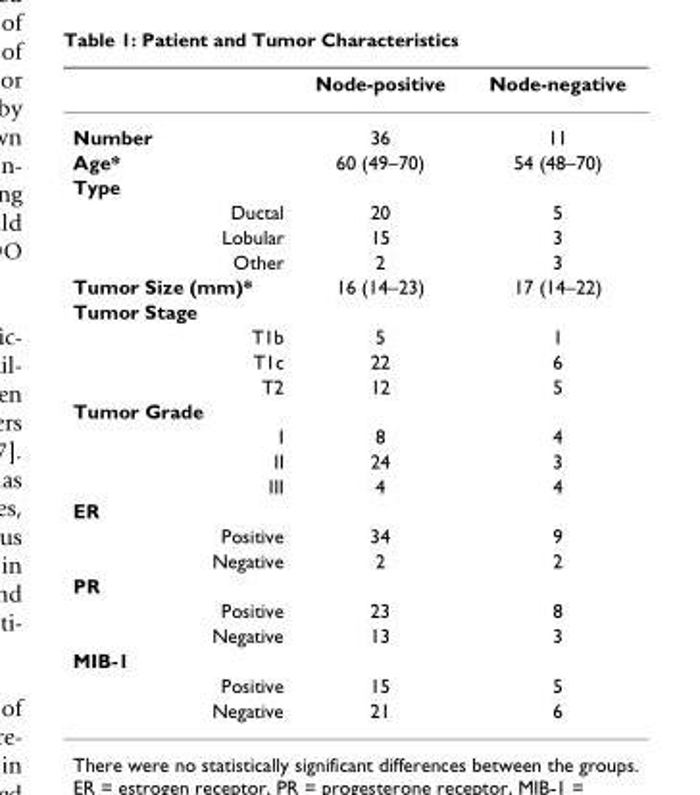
<table><thead><tr><td></td><td>Node-positive</td><td>Node-negative</td></tr></thead><tbody><tr><td>Number</td><td>36</td><td>11</td></tr><tr><td>Age*</td><td>60 (49–70)</td><td>54 (48–70)</td></tr><tr><td colspan="3">Type</td></tr><tr><td>Ductal</td><td>20</td><td>5</td></tr><tr><td>Lobular</td><td>15</td><td>3</td></tr><tr><td>Other</td><td>2</td><td>3</td></tr><tr><td>Tumor Size (mm)*</td><td>16 (14–23)</td><td>17 (14–22)</td></tr><tr><td colspan="3">Tumor Stage</td></tr><tr><td>T1b</td><td>5</td><td>1</td></tr><tr><td>T1c</td><td>22</td><td>6</td></tr><tr><td>T2</td><td>12</td><td>5</td></tr><tr><td colspan="3">Tumor Grade</td></tr><tr><td>I</td><td>8</td><td>4</td></tr><tr><td>II</td><td>24</td><td>3</td></tr><tr><td>III</td><td>4</td><td>4</td></tr><tr><td colspan="3">ER</td></tr><tr><td>Positive</td><td>34</td><td>9</td></tr><tr><td>Negative</td><td>2</td><td>2</td></tr><tr><td colspan="3">PR</td></tr><tr><td>Positive</td><td>23</td><td>8</td></tr><tr><td>Negative</td><td>13</td><td>3</td></tr><tr><td colspan="3">MIB-1</td></tr><tr><td>Positive</td><td>15</td><td>5</td></tr><tr><td>Negative</td><td>21</td><td>6</td></tr></tbody></table>